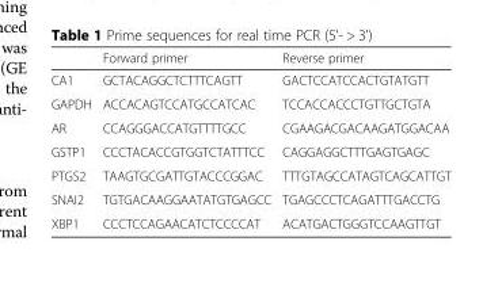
<table><thead><tr><td></td><td>Forward primer</td><td>Reverse primer</td></tr></thead><tbody><tr><td>CA1</td><td>GCTACAGGCTCTTTCAGTT</td><td>GACTCCATCCACTGTATGTT</td></tr><tr><td>GAPDH</td><td>ACCACAGTCCATGCCATCAC</td><td>TCCACCACCCTGTTGCTGTA</td></tr><tr><td>AR</td><td>CCAGGGACCATGTTTTGCC</td><td>CGAAGACGACAAGATGGACAA</td></tr><tr><td>GSTP1</td><td>CCCTACACCGTGGTCTATTTCC</td><td>CAGGAGGCTTTGAGTGAGC</td></tr><tr><td>PTGS2</td><td>TAAGTGCGATTGTACCCGGAC</td><td>TTTGTAGCCATAGTCAGCATTGT</td></tr><tr><td>SNAI2</td><td>TGTGACAAGGAATATGTGAGCC</td><td>TGAGCCCTCAGATTTGACCTG</td></tr><tr><td>XBP1</td><td>CCCTCCAGAACATCTCCCCAT</td><td>ACATGACTGGGTCCAAGTTGT</td></tr></tbody></table>